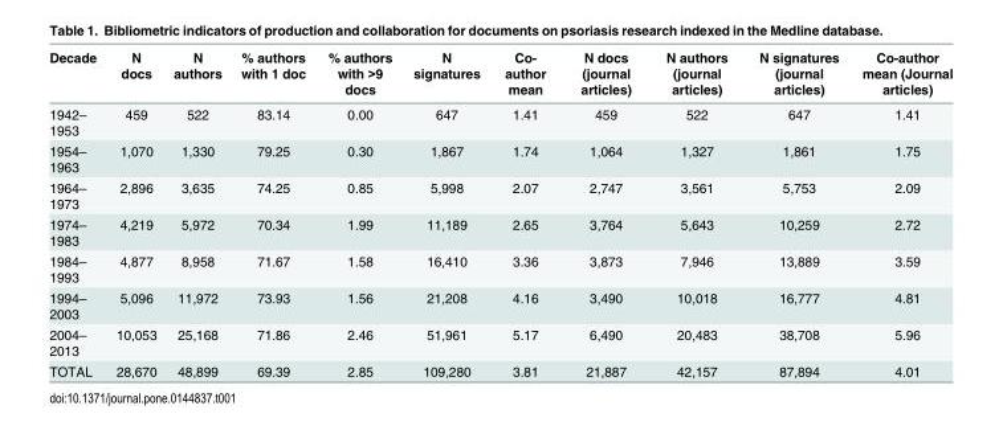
<table><thead><tr><td>Decade</td><td>N docs</td><td>N authors</td><td>% authors with 1 doc</td><td>% authors with &gt;9 docs</td><td>N signatures</td><td>Co- author mean</td><td>N docs (journal articles)</td><td>N authors (journal articles)</td><td>N signatures (journal articles)</td><td>Co-author mean (Journal articles)</td></tr></thead><tbody><tr><td>1942– 1953</td><td>459</td><td>522</td><td>83.14</td><td>0.00</td><td>647</td><td>1.41</td><td>459</td><td>522</td><td>647</td><td>1.41</td></tr><tr><td>1954– 1963</td><td>1,070</td><td>1,330</td><td>79.25</td><td>0.30</td><td>1,867</td><td>1.74</td><td>1,064</td><td>1,327</td><td>1,861</td><td>1.75</td></tr><tr><td>1964– 1973</td><td>2,896</td><td>3,635</td><td>74.25</td><td>0.85</td><td>5,998</td><td>2.07</td><td>2,747</td><td>3,561</td><td>5,753</td><td>2.09</td></tr><tr><td>1974– 1983</td><td>4,219</td><td>5,972</td><td>70.34</td><td>1.99</td><td>11,189</td><td>2.65</td><td>3,764</td><td>5,643</td><td>10,259</td><td>2.72</td></tr><tr><td>1984– 1993</td><td>4,877</td><td>8,958</td><td>71.67</td><td>1.58</td><td>16,410</td><td>3.36</td><td>3,873</td><td>7,946</td><td>13,889</td><td>3.59</td></tr><tr><td>1994– 2003</td><td>5,096</td><td>11,972</td><td>73.93</td><td>1.56</td><td>21,208</td><td>4.16</td><td>3,490</td><td>10,018</td><td>16,777</td><td>4.81</td></tr><tr><td>2004– 2013</td><td>10,053</td><td>25,168</td><td>71.86</td><td>2.46</td><td>51,961</td><td>5.17</td><td>6,490</td><td>20,483</td><td>38,708</td><td>5.96</td></tr><tr><td>TOTAL</td><td>28,670</td><td>48,899</td><td>69.39</td><td>2.85</td><td>109,280</td><td>3.81</td><td>21,887</td><td>42,157</td><td>87,894</td><td>4.01</td></tr></tbody></table>